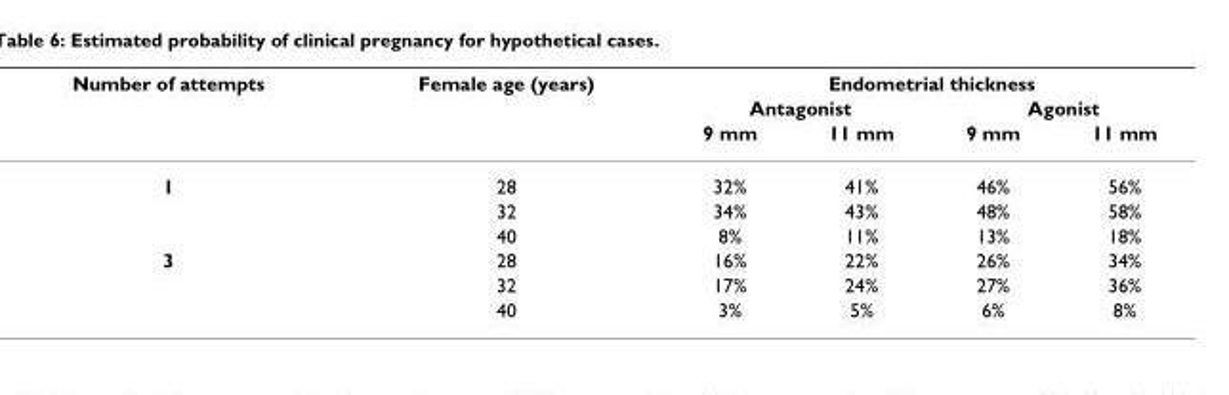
<table><thead><tr><td rowspan="3">Number of attempts</td><td rowspan="3">Female age (years)</td><td colspan="4">Endometrial thickness</td></tr><tr><td colspan="2">Antagonist</td><td colspan="2">Agonist</td></tr><tr><td>9 mm</td><td>11 mm</td><td>9 mm</td><td>11 mm</td></tr></thead><tbody><tr><td rowspan="3">1</td><td>28</td><td>32%</td><td>41%</td><td>46%</td><td>56%</td></tr><tr><td>32</td><td>34%</td><td>43%</td><td>48%</td><td>58%</td></tr><tr><td>40</td><td>8%</td><td>11%</td><td>13%</td><td>18%</td></tr><tr><td rowspan="3">3</td><td>28</td><td>16%</td><td>22%</td><td>26%</td><td>34%</td></tr><tr><td>32</td><td>17%</td><td>24%</td><td>27%</td><td>36%</td></tr><tr><td>40</td><td>3%</td><td>5%</td><td>6%</td><td>8%</td></tr></tbody></table>